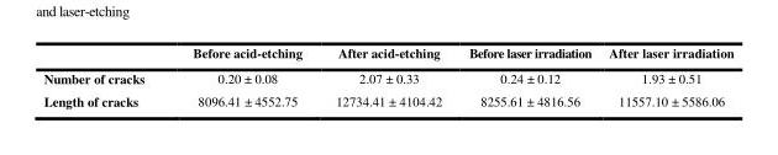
<table><thead><tr><td></td><td>Before acid-etching</td><td>After acid-etching</td><td>Before laser irradiation</td><td>After laser irradiation</td></tr></thead><tbody><tr><td>Number of cracks</td><td>0.20 ± 0.08</td><td>2.07 ± 0.33</td><td>0.24 ± 0.12</td><td>1.93 ± 0.51</td></tr><tr><td>Length of cracks</td><td>8096.41 ± 4552.75</td><td>12734.41 ± 4104.42</td><td>8255.61 ± 4816.56</td><td>11557.10 ± 5586.06</td></tr></tbody></table>